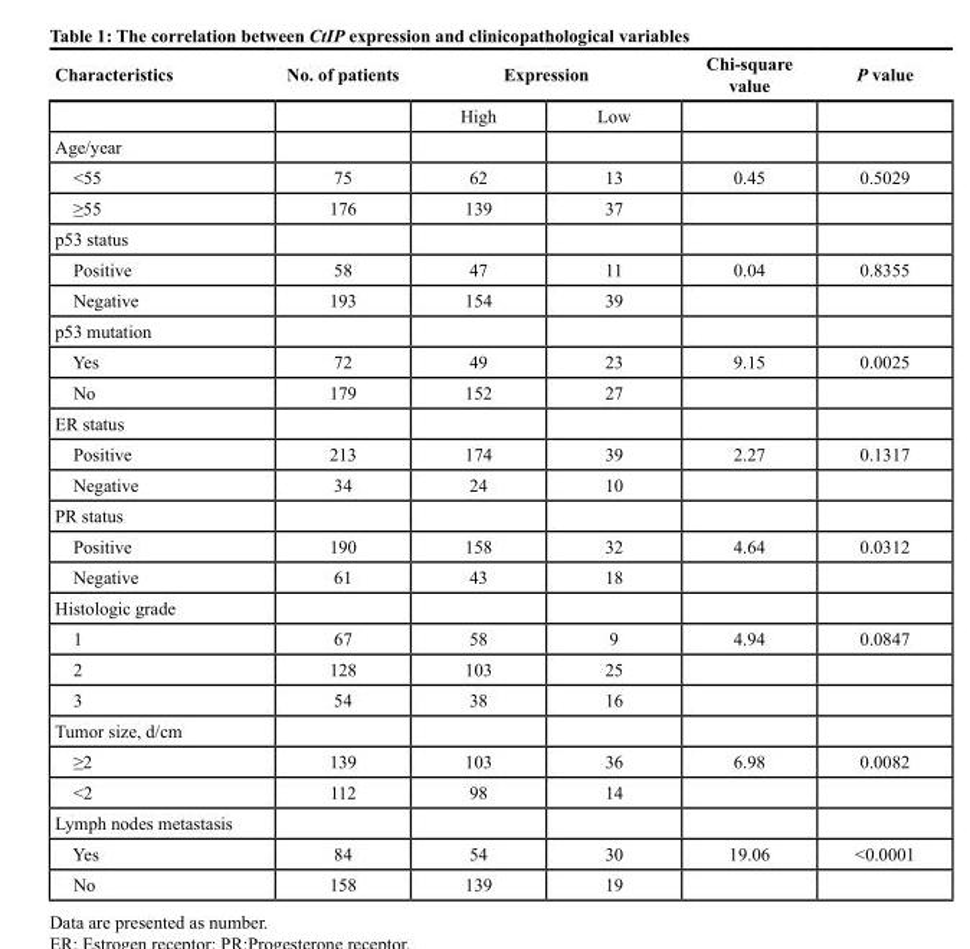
<table><thead><tr><td rowspan="2">Characteristics</td><td rowspan="2">No. of patients</td><td colspan="2">Expression</td><td rowspan="2">Chi-square value</td><td rowspan="2">P value</td></tr><tr><td>High</td><td>Low</td></tr></thead><tbody><tr><td colspan="6">Age/year</td></tr><tr><td>&lt;55</td><td>75</td><td>62</td><td>13</td><td>0.45</td><td>0.5029</td></tr><tr><td>≥55</td><td>176</td><td>139</td><td>37</td><td></td><td></td></tr><tr><td colspan="6">p53 status</td></tr><tr><td>Positive</td><td>58</td><td>47</td><td>11</td><td>0.04</td><td>0.8355</td></tr><tr><td>Negative</td><td>193</td><td>154</td><td>39</td><td></td><td></td></tr><tr><td colspan="6">p53 mutation</td></tr><tr><td>Yes</td><td>72</td><td>49</td><td>23</td><td>9.15</td><td>0.0025</td></tr><tr><td>No</td><td>179</td><td>152</td><td>27</td><td></td><td></td></tr><tr><td colspan="6">ER status</td></tr><tr><td>Positive</td><td>213</td><td>174</td><td>39</td><td>2.27</td><td>0.1317</td></tr><tr><td>Negative</td><td>34</td><td>24</td><td>10</td><td></td><td></td></tr><tr><td colspan="6">PR status</td></tr><tr><td>Positive</td><td>190</td><td>158</td><td>32</td><td>4.64</td><td>0.0312</td></tr><tr><td>Negative</td><td>61</td><td>43</td><td>18</td><td></td><td></td></tr><tr><td colspan="6">Histologic grade</td></tr><tr><td>1</td><td>67</td><td>58</td><td>9</td><td>4.94</td><td>0.0847</td></tr><tr><td>2</td><td>128</td><td>103</td><td>25</td><td></td><td></td></tr><tr><td>3</td><td>54</td><td>38</td><td>16</td><td></td><td></td></tr><tr><td colspan="6">Tumor size, d/cm</td></tr><tr><td>≥2</td><td>139</td><td>103</td><td>36</td><td>6.98</td><td>0.0082</td></tr><tr><td>&lt;2</td><td>112</td><td>98</td><td>14</td><td></td><td></td></tr><tr><td colspan="6">Lymph nodes metastasis</td></tr><tr><td>Yes</td><td>84</td><td>54</td><td>30</td><td>19.06</td><td>&lt;0.0001</td></tr><tr><td>No</td><td>158</td><td>139</td><td>19</td><td></td><td></td></tr></tbody></table>